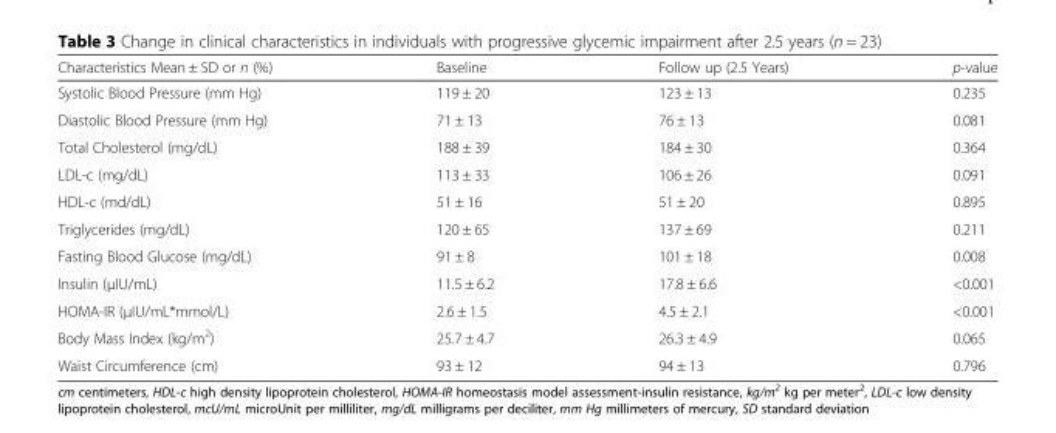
<table><thead><tr><td>Characteristics Mean ± SD or n (%)</td><td>Baseline</td><td>Follow up (2.5 Years)</td><td>p-value</td></tr></thead><tbody><tr><td>Systolic Blood Pressure (mm Hg)</td><td>119 ± 20</td><td>123 ± 13</td><td>0.235</td></tr><tr><td>Diastolic Blood Pressure (mm Hg)</td><td>71 ± 13</td><td>76 ± 13</td><td>0.081</td></tr><tr><td>Total Cholesterol (mg/dL)</td><td>188 ± 39</td><td>184 ± 30</td><td>0.364</td></tr><tr><td>LDL-c (mg/dL)</td><td>113 ± 33</td><td>106 ± 26</td><td>0.091</td></tr><tr><td>HDL-c (md/dL)</td><td>51 ± 16</td><td>51 ± 20</td><td>0.895</td></tr><tr><td>Triglycerides (mg/dL)</td><td>120 ± 65</td><td>137 ± 69</td><td>0.211</td></tr><tr><td>Fasting Blood Glucose (mg/dL)</td><td>91 ± 8</td><td>101 ± 18</td><td>0.008</td></tr><tr><td>Insulin (μIU/mL)</td><td>11.5 ± 6.2</td><td>17.8 ± 6.6</td><td>&lt;0.001</td></tr><tr><td>HOMA-IR (μIU/mL*mmol/L)</td><td>2.6 ± 1.5</td><td>4.5 ± 2.1</td><td>&lt;0.001</td></tr><tr><td>Body Mass Index (kg/m<sup>2</sup>)</td><td>25.7 ± 4.7</td><td>26.3 ± 4.9</td><td>0.065</td></tr><tr><td>Waist Circumference (cm)</td><td>93 ± 12</td><td>94 ± 13</td><td>0.796</td></tr></tbody></table>